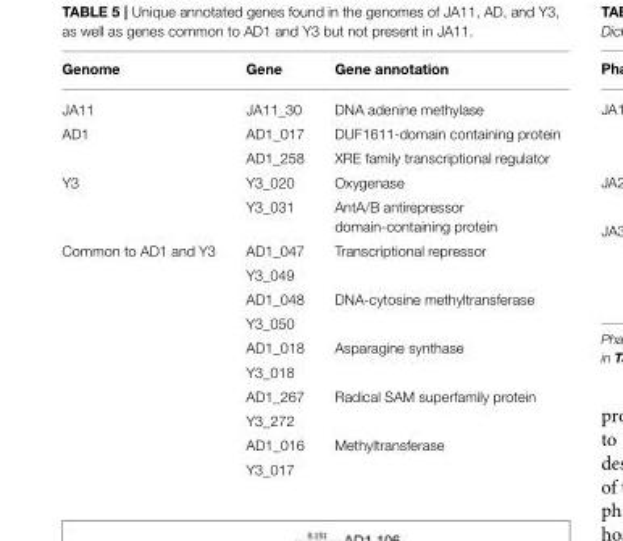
<table><thead><tr><td>Genome</td><td>Gene</td><td>Gene annotation</td></tr></thead><tbody><tr><td>JA11</td><td>JA11_30</td><td>DNA adenine methylase</td></tr><tr><td rowspan="2">AD1</td><td>AD1_017</td><td>DUF1611-domain containing protein</td></tr><tr><td>AD1_258</td><td>XRE family transcriptional regulator</td></tr><tr><td rowspan="2">Y3</td><td>Y3_020</td><td>Oxygenase</td></tr><tr><td>Y3_031</td><td>AntA/B antirepressor domain-containing protein</td></tr><tr><td rowspan="10">Common to AD1 and Y3</td><td>AD1_047</td><td>Transcriptional repressor</td></tr><tr><td>Y3_049</td><td></td></tr><tr><td>AD1_048</td><td>DNA-cytosine methyltransferase</td></tr><tr><td>Y3_050</td><td></td></tr><tr><td>AD1_018</td><td>Asparagine synthase</td></tr><tr><td>Y3_018</td><td></td></tr><tr><td>AD1_267</td><td>Radical SAM superfamily protein</td></tr><tr><td>Y3_272</td><td></td></tr><tr><td>AD1_016</td><td>Methyltransferase</td></tr><tr><td>Y3_017</td><td></td></tr></tbody></table>